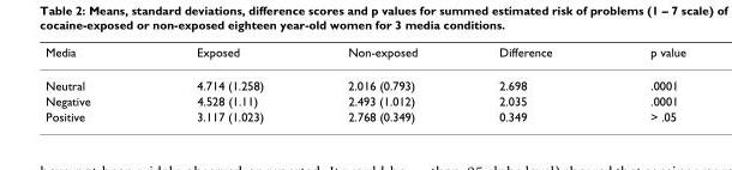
<table><thead><tr><td>Media</td><td>Exposed</td><td>Non-exposed</td><td>Difference</td><td>p value</td></tr></thead><tbody><tr><td>Neutral</td><td>4.714 (1.258)</td><td>2.016 (0.793)</td><td>2.698</td><td>.0001</td></tr><tr><td>Negative</td><td>4.528 (1.11)</td><td>2.493 (1.012)</td><td>2.035</td><td>.0001</td></tr><tr><td>Positive</td><td>3.117 (1.023)</td><td>2.768 (0.349)</td><td>0.349</td><td>&gt; .05</td></tr></tbody></table>